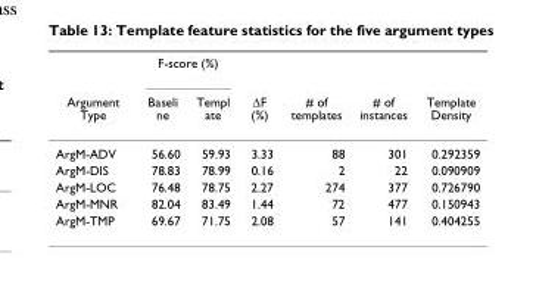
<table><thead><tr><td rowspan="2">Argument Type</td><td colspan="2">F-score (%)</td><td rowspan="2">∆F (%)</td><td rowspan="2"># of templates</td><td rowspan="2"># of instances</td><td rowspan="2">Template Density</td></tr><tr><td>Baseli ne</td><td>Templ ate</td></tr></thead><tbody><tr><td>ArgM-ADV</td><td>56.60</td><td>59.93</td><td>3.33</td><td>88</td><td>301</td><td>0.292359</td></tr><tr><td>ArgM-DIS</td><td>78.83</td><td>78.99</td><td>0.16</td><td>2</td><td>22</td><td>0.090909</td></tr><tr><td>ArgM-LOC</td><td>76.48</td><td>78.75</td><td>2.27</td><td>274</td><td>377</td><td>0.726790</td></tr><tr><td>ArgM-MNR</td><td>82.04</td><td>83.49</td><td>1.44</td><td>72</td><td>477</td><td>0.150943</td></tr><tr><td>ArgM-TMP</td><td>69.67</td><td>71.75</td><td>2.08</td><td>57</td><td>141</td><td>0.404255</td></tr></tbody></table>